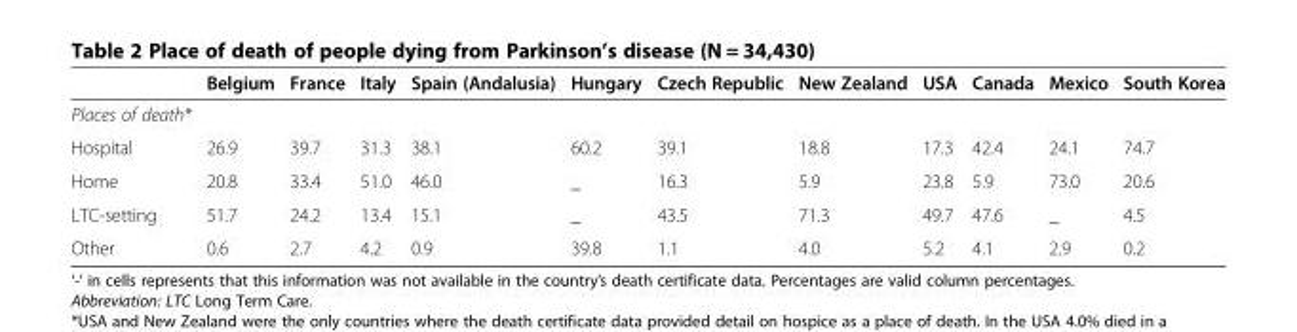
<table><thead><tr><td></td><td>Belgium</td><td>France</td><td>Italy</td><td>Spain (Andalusia)</td><td>Hungary</td><td>Czech Republic</td><td>New Zealand</td><td>USA</td><td>Canada</td><td>Mexico</td><td>South Korea</td></tr></thead><tbody><tr><td colspan="12">Places of death*</td></tr><tr><td>Hospital</td><td>26.9</td><td>39.7</td><td>31.3</td><td>38.1</td><td>60.2</td><td>39.1</td><td>18.8</td><td>17.3</td><td>42.4</td><td>24.1</td><td>74.7</td></tr><tr><td>Home</td><td>20.8</td><td>33.4</td><td>51.0</td><td>46.0</td><td>_</td><td>16.3</td><td>5.9</td><td>23.8</td><td>5.9</td><td>73.0</td><td>20.6</td></tr><tr><td>LTC-setting</td><td>51.7</td><td>24.2</td><td>13.4</td><td>15.1</td><td>_</td><td>43.5</td><td>71.3</td><td>49.7</td><td>47.6</td><td>_</td><td>4.5</td></tr><tr><td>Other</td><td>0.6</td><td>2.7</td><td>4.2</td><td>0.9</td><td>39.8</td><td>1.1</td><td>4.0</td><td>5.2</td><td>4.1</td><td>2.9</td><td>0.2</td></tr></tbody></table>